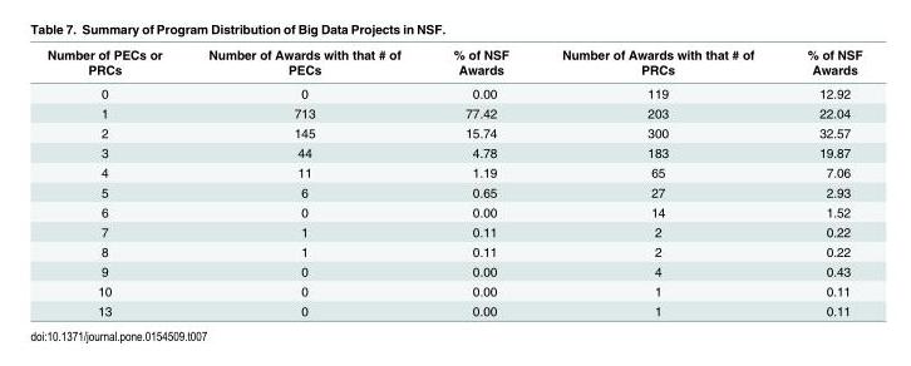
<table><thead><tr><td>Number of PECs or PRCs</td><td>Number of Awards with that # of PECs</td><td>% of NSF Awards</td><td>Number of Awards with that # of PRCs</td><td>% of NSF Awards</td></tr></thead><tbody><tr><td>0</td><td>0</td><td>0.00</td><td>119</td><td>12.92</td></tr><tr><td>1</td><td>713</td><td>77.42</td><td>203</td><td>22.04</td></tr><tr><td>2</td><td>145</td><td>15.74</td><td>300</td><td>32.57</td></tr><tr><td>3</td><td>44</td><td>4.78</td><td>183</td><td>19.87</td></tr><tr><td>4</td><td>11</td><td>1.19</td><td>65</td><td>7.06</td></tr><tr><td>5</td><td>6</td><td>0.65</td><td>27</td><td>2.93</td></tr><tr><td>6</td><td>0</td><td>0.00</td><td>14</td><td>1.52</td></tr><tr><td>7</td><td>1</td><td>0.11</td><td>2</td><td>0.22</td></tr><tr><td>8</td><td>1</td><td>0.11</td><td>2</td><td>0.22</td></tr><tr><td>9</td><td>0</td><td>0.00</td><td>4</td><td>0.43</td></tr><tr><td>10</td><td>0</td><td>0.00</td><td>1</td><td>0.11</td></tr><tr><td>13</td><td>0</td><td>0.00</td><td>1</td><td>0.11</td></tr></tbody></table>